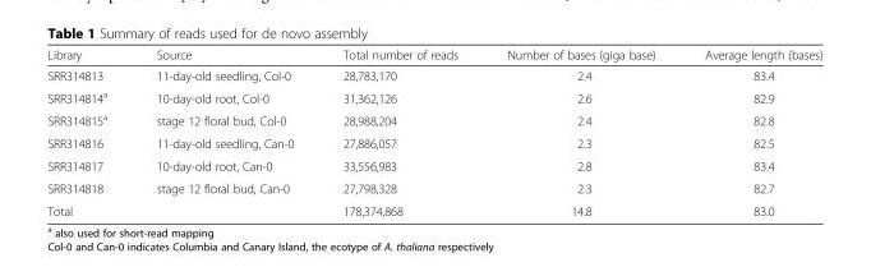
<table><thead><tr><td>Library</td><td>Source</td><td>Total number of reads</td><td>Number of bases (giga base)</td><td>Average length (bases)</td></tr></thead><tbody><tr><td>SRR314813</td><td>11-day-old seedling, Col-0</td><td>28,783,170</td><td>2.4</td><td>83.4</td></tr><tr><td>SRR314814<sup>a</sup></td><td>10-day-old root, Col-0</td><td>31,362,126</td><td>2.6</td><td>82.9</td></tr><tr><td>SRR314815<sup>a</sup></td><td>stage 12 floral bud, Col-0</td><td>28,988,204</td><td>2.4</td><td>82.8</td></tr><tr><td>SRR314816</td><td>11-day-old seedling, Can-0</td><td>27,886,057</td><td>2.3</td><td>82.5</td></tr><tr><td>SRR314817</td><td>10-day-old root, Can-0</td><td>33,556,983</td><td>2.8</td><td>83.4</td></tr><tr><td>SRR314818</td><td>stage 12 floral bud, Can-0</td><td>27,798,328</td><td>2.3</td><td>82.7</td></tr><tr><td>Total</td><td></td><td>178,374,868</td><td>14.8</td><td>83.0</td></tr></tbody></table>